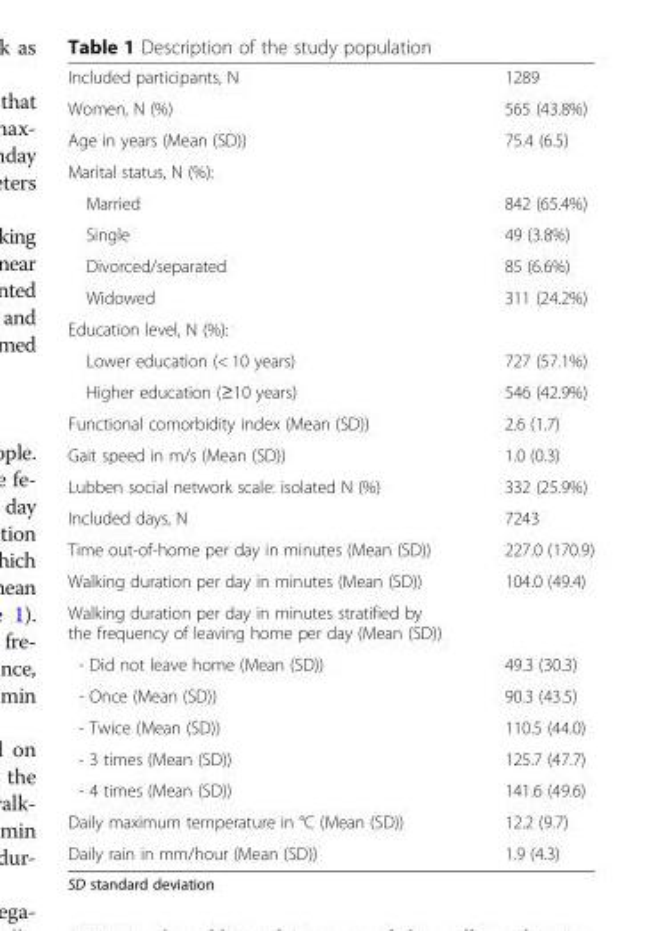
<table><tbody><tr><td>Included participants, N</td><td>1289</td></tr><tr><td>Women, N (%)</td><td>565 (43.8%)</td></tr><tr><td>Age in years (Mean (SD))</td><td>75.4 (6.5)</td></tr><tr><td colspan="2">Marital status, N (%):</td></tr><tr><td>Married</td><td>842 (65.4%)</td></tr><tr><td>Single</td><td>49 (3.8%)</td></tr><tr><td>Divorced/separated</td><td>85 (6.6%)</td></tr><tr><td>Widowed</td><td>311 (24.2%)</td></tr><tr><td colspan="2">Education level, N (%):</td></tr><tr><td>Lower education (&lt; 10 years)</td><td>727 (57.1%)</td></tr><tr><td>Higher education (≥10 years)</td><td>546 (42.9%)</td></tr><tr><td>Functional comorbidity index (Mean (SD))</td><td>2.6 (1.7)</td></tr><tr><td>Gait speed in m/s (Mean (SD))</td><td>1.0 (0.3)</td></tr><tr><td>Lubben social network scale: isolated N (%)</td><td>332 (25.9%)</td></tr><tr><td>Included days, N</td><td>7243</td></tr><tr><td>Time out-of-home per day in minutes (Mean (SD))</td><td>227.0 (170.9)</td></tr><tr><td>Walking duration per day in minutes (Mean (SD))</td><td>104.0 (49.4)</td></tr><tr><td colspan="2">Walking duration per day in minutes stratified by the frequency of leaving home per day (Mean (SD))</td></tr><tr><td>- Did not leave home (Mean (SD))</td><td>49.3 (30.3)</td></tr><tr><td>- Once (Mean (SD))</td><td>90.3 (43.5)</td></tr><tr><td>- Twice (Mean (SD))</td><td>110.5 (44.0)</td></tr><tr><td>- 3 times (Mean (SD))</td><td>125.7 (47.7)</td></tr><tr><td>- 4 times (Mean (SD))</td><td>141.6 (49.6)</td></tr><tr><td>Daily maximum temperature in °C (Mean (SD))</td><td>12.2 (9.7)</td></tr><tr><td>Daily rain in mm/hour (Mean (SD))</td><td>1.9 (4.3)</td></tr></tbody></table>